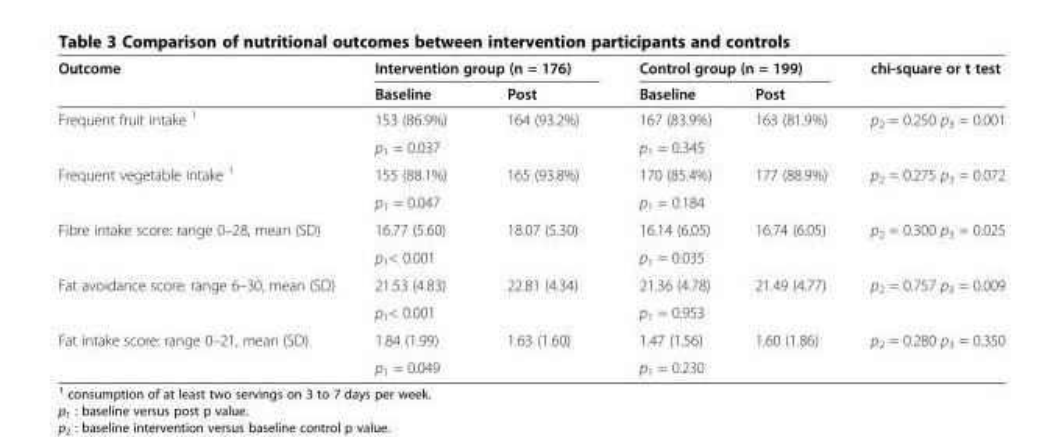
<table><thead><tr><td rowspan="2">Outcome</td><td colspan="2">Intervention group (n = 176)</td><td colspan="2">Control group (n = 199)</td><td rowspan="2">chi-square or t test</td></tr><tr><td>Baseline</td><td>Post</td><td>Baseline</td><td>Post</td></tr></thead><tbody><tr><td rowspan="2">Frequent fruit intake <sup>1</sup></td><td>153 (86.9%)</td><td>164 (93.2%)</td><td>167 (83.9%)</td><td>163 (81.9%)</td><td rowspan="2">p<sub>2</sub> = 0.250 p<sub>3</sub> = 0.001</td></tr><tr><td colspan="2">p<sub>1</sub> = 0.037</td><td colspan="2">p<sub>1</sub> = 0.345</td></tr><tr><td rowspan="2">Frequent vegetable intake <sup>1</sup></td><td>155 (88.1%)</td><td>165 (93.8%)</td><td>170 (85.4%)</td><td>177 (88.9%)</td><td rowspan="2">p<sub>2</sub> = 0.275 p<sub>3</sub> = 0.072</td></tr><tr><td colspan="2">p<sub>1</sub> = 0.047</td><td colspan="2">p<sub>1</sub> = 0.184</td></tr><tr><td rowspan="2">Fibre intake score: range 0–28, mean (SD)</td><td>16.77 (5.60)</td><td>18.07 (5.30)</td><td>16.14 (6.05)</td><td>16.74 (6.05)</td><td rowspan="2">p<sub>2</sub> = 0.300 p<sub>3</sub> = 0.025</td></tr><tr><td colspan="2">p<sub>1</sub>&lt; 0.001</td><td colspan="2">p<sub>1</sub> = 0.035</td></tr><tr><td rowspan="2">Fat avoidance score: range 6–30, mean (SD)</td><td>21.53 (4.83)</td><td>22.81 (4.34)</td><td>21.36 (4.78)</td><td>21.49 (4.77)</td><td rowspan="2">p<sub>2</sub> = 0.757 p<sub>3</sub> = 0.009</td></tr><tr><td colspan="2">p<sub>1</sub>&lt; 0.001</td><td colspan="2">p<sub>1</sub> = 0.953</td></tr><tr><td rowspan="2">Fat intake score: range 0–21, mean (SD)</td><td>1.84 (1.99)</td><td>1.63 (1.60)</td><td>1.47 (1.56)</td><td>1.60 (1.86)</td><td>p<sub>2</sub> = 0.280 p<sub>3</sub> = 0.350</td></tr><tr><td colspan="2">p<sub>1</sub> = 0.049</td><td colspan="2">p<sub>1</sub> = 0.230</td><td></td></tr></tbody></table>